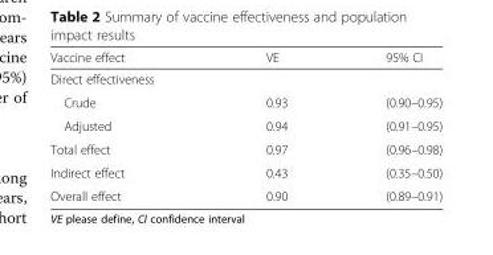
<table><thead><tr><td>Vaccine effect</td><td>VE</td><td>95% CI</td></tr></thead><tbody><tr><td colspan="3">Direct effectiveness</td></tr><tr><td>Crude</td><td>0.93</td><td>(0.90–0.95)</td></tr><tr><td>Adjusted</td><td>0.94</td><td>(0.91–0.95)</td></tr><tr><td>Total effect</td><td>0.97</td><td>(0.96–0.98)</td></tr><tr><td>Indirect effect</td><td>0.43</td><td>(0.35–0.50)</td></tr><tr><td>Overall effect</td><td>0.90</td><td>(0.89–0.91)</td></tr></tbody></table>